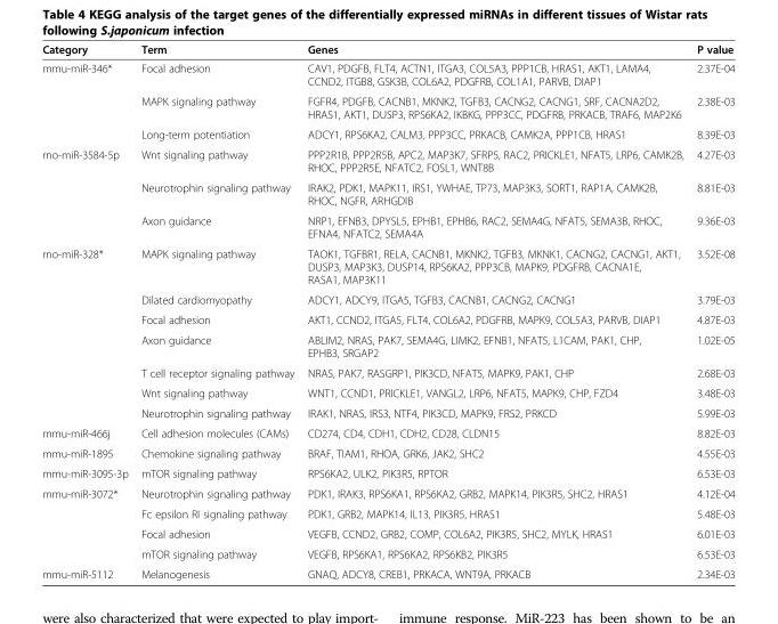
<table><thead><tr><td>Category</td><td>Term</td><td>Genes</td><td>P value</td></tr></thead><tbody><tr><td rowspan="3">mmu-miR-346*</td><td>Focal adhesion</td><td>CAV1, PDGFB, FLT4, ACTN1, ITGA3, COL5A3, PPP1CB, HRAS1, AKT1, LAMA4, CCND2, ITGB8, GSK3B, COL6A2, PDGFRB, COL1A1, PARVB, DIAP1</td><td>2.37E-04</td></tr><tr><td>MAPK signaling pathway</td><td>FGFR4, PDGFB, CACNB1, MKNK2, TGFB3, CACNG2, CACNG1, SRF, CACNA2D2, HRAS1, AKT1, DUSP3, RPS6KA2, IKBKG, PPP3CC, PDGFRB, PRKACB, TRAF6, MAP2K6</td><td>2.38E-03</td></tr><tr><td>Long-term potentiation</td><td>ADCY1, RPS6KA2, CALM3, PPP3CC, PRKACB, CAMK2A, PPP1CB, HRAS1</td><td>8.39E-03</td></tr><tr><td rowspan="3">rno-miR-3584-5p</td><td>Wnt signaling pathway</td><td>PPP2R1B, PPP2R5B, APC2, MAP3K7, SFRP5, RAC2, PRICKLE1, NFAT5, LRP6, CAMK2B, RHOC, PPP2R5E, NFATC2, FOSL1, WNT8B</td><td>4.27E-03</td></tr><tr><td>Neurotrophin signaling pathway</td><td>IRAK2, PDK1, MAPK11, IRS1, YWHAE, TP73, MAP3K3, SORT1, RAP1A, CAMK2B, RHOC, NGFR, ARHGDIB</td><td>8.81E-03</td></tr><tr><td>Axon guidance</td><td>NRP1, EFNB3, DPYSL5, EPHB1, EPHB6, RAC2, SEMA4G, NFAT5, SEMA3B, RHOC, EFNA4, NFATC2, SEMA4A</td><td>9.36E-03</td></tr><tr><td rowspan="7">rno-miR-328*</td><td>MAPK signaling pathway</td><td>TAOK1, TGFBR1, RELA, CACNB1, MKNK2, TGFB3, MKNK1, CACNG2, CACNG1, AKT1, DUSP3, MAP3K3, DUSP14, RPS6KA2, PPP3CB, MAPK9, PDGFRB, CACNA1E, RASA1, MAP3K11</td><td>3.52E-08</td></tr><tr><td>Dilated cardiomyopathy</td><td>ADCY1, ADCY9, ITGA5, TGFB3, CACNB1, CACNG2, CACNG1</td><td>3.79E-03</td></tr><tr><td>Focal adhesion</td><td>AKT1, CCND2, ITGA5, FLT4, COL6A2, PDGFRB, MAPK9, COL5A3, PARVB, DIAP1</td><td>4.87E-03</td></tr><tr><td>Axon guidance</td><td>ABLIM2, NRAS, PAK7, SEMA4G, LIMK2, EFNB1, NFAT5, L1CAM, PAK1, CHP, EPHB3, SRGAP2</td><td>1.02E-05</td></tr><tr><td>T cell receptor signaling pathway</td><td>NRAS, PAK7, RASGRP1, PIK3CD, NFAT5, MAPK9, PAK1, CHP</td><td>2.68E-03</td></tr><tr><td>Wnt signaling pathway</td><td>WNT1, CCND1, PRICKLE1, VANGL2, LRP6, NFAT5, MAPK9, CHP, FZD4</td><td>3.48E-03</td></tr><tr><td>Neurotrophin signaling pathway</td><td>IRAK1, NRAS, IRS3, NTF4, PIK3CD, MAPK9, FRS2, PRKCD</td><td>5.99E-03</td></tr><tr><td>mmu-miR-466j</td><td>Cell adhesion molecules (CAMs)</td><td>CD274, CD4, CDH1, CDH2, CD28, CLDN15</td><td>8.82E-03</td></tr><tr><td>mmu-miR-1895</td><td>Chemokine signaling pathway</td><td>BRAF, TIAM1, RHOA, GRK6, JAK2, SHC2</td><td>4.55E-03</td></tr><tr><td>mmu-miR-3095-3p</td><td>mTOR signaling pathway</td><td>RPS6KA2, ULK2, PIK3R5, RPTOR</td><td>6.53E-03</td></tr><tr><td rowspan="4">mmu-miR-3072*</td><td>Neurotrophin signaling pathway</td><td>PDK1, IRAK3, RPS6KA1, RPS6KA2, GRB2, MAPK14, PIK3R5, SHC2, HRAS1</td><td>4.12E-04</td></tr><tr><td>Fc epsilon RI signaling pathway</td><td>PDK1, GRB2, MAPK14, IL13, PIK3R5, HRAS1</td><td>5.48E-03</td></tr><tr><td>Focal adhesion</td><td>VEGFB, CCND2, GRB2, COMP, COL6A2, PIK3R5, SHC2, MYLK, HRAS1</td><td>6.01E-03</td></tr><tr><td>mTOR signaling pathway</td><td>VEGFB, RPS6KA1, RPS6KA2, RPS6KB2, PIK3R5</td><td>6.53E-03</td></tr><tr><td>mmu-miR-5112</td><td>Melanogenesis</td><td>GNAQ, ADCY8, CREB1, PRKACA, WNT9A, PRKACB</td><td>2.34E-03</td></tr></tbody></table>